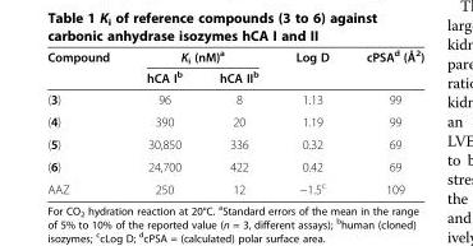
<table><thead><tr><td rowspan="2">Compound</td><td colspan="2">K<sub>i</sub> (nM)<sup>a</sup></td><td rowspan="2">Log D</td><td rowspan="2">cPSA<sup>d</sup> (Å<sup>2</sup>)</td></tr><tr><td>hCA I<sup>b</sup></td><td>hCA II<sup>b</sup></td></tr></thead><tbody><tr><td>(3)</td><td>96</td><td>8</td><td>1.13</td><td>99</td></tr><tr><td>(4)</td><td>390</td><td>20</td><td>1.19</td><td>99</td></tr><tr><td>(5)</td><td>30,850</td><td>336</td><td>0.32</td><td>69</td></tr><tr><td>(6)</td><td>24,700</td><td>422</td><td>0.42</td><td>69</td></tr><tr><td>AAZ</td><td>250</td><td>12</td><td>−1.5<sup>c</sup></td><td>109</td></tr></tbody></table>